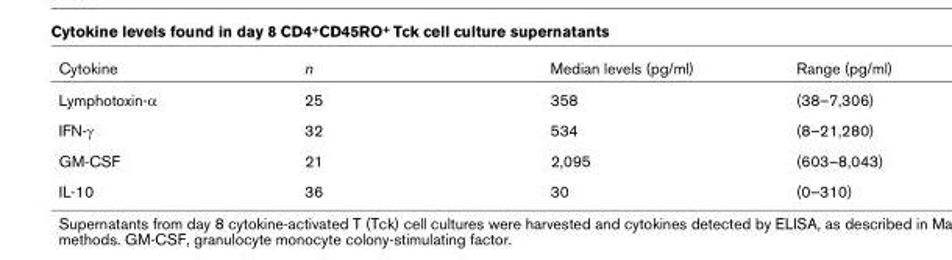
<table><thead><tr><td>Cytokine</td><td>n</td><td>Median levels (pg/ml)</td><td>Range (pg/ml)</td></tr></thead><tbody><tr><td>Lymphotoxin-α</td><td>25</td><td>358</td><td>(38–7,306)</td></tr><tr><td>IFN-γ</td><td>32</td><td>534</td><td>(8–21,280)</td></tr><tr><td>GM-CSF</td><td>21</td><td>2,095</td><td>(603–8,043)</td></tr><tr><td>IL-10</td><td>36</td><td>30</td><td>(0–310)</td></tr></tbody></table>